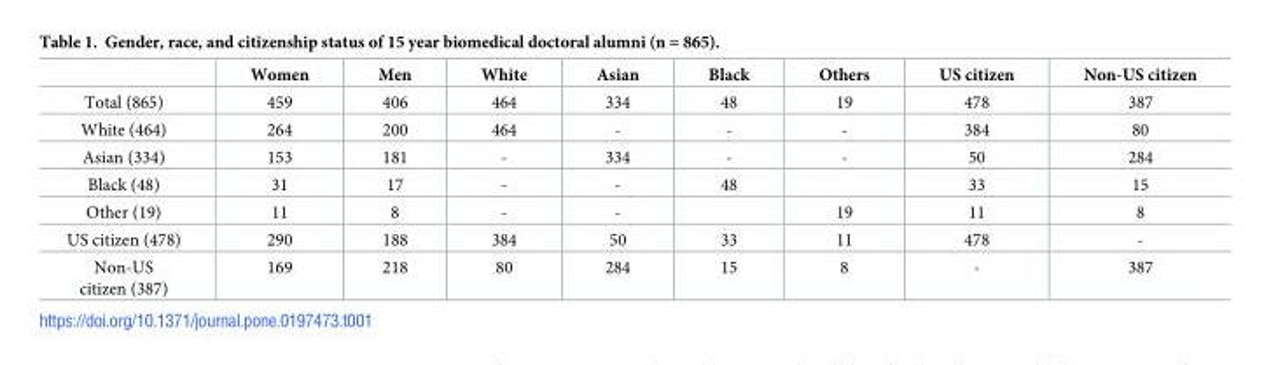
<table><thead><tr><td></td><td>Women</td><td>Men</td><td>White</td><td>Asian</td><td>Black</td><td>Others</td><td>US citizen</td><td>Non-US citizen</td></tr></thead><tbody><tr><td>Total (865)</td><td>459</td><td>406</td><td>464</td><td>334</td><td>48</td><td>19</td><td>478</td><td>387</td></tr><tr><td>White (464)</td><td>264</td><td>200</td><td>464</td><td>-</td><td>-</td><td>-</td><td>384</td><td>80</td></tr><tr><td>Asian (334)</td><td>153</td><td>181</td><td>-</td><td>334</td><td>-</td><td>-</td><td>50</td><td>284</td></tr><tr><td>Black (48)</td><td>31</td><td>17</td><td>-</td><td>-</td><td>48</td><td></td><td>33</td><td>15</td></tr><tr><td>Other (19)</td><td>11</td><td>8</td><td>-</td><td>-</td><td></td><td>19</td><td>11</td><td>8</td></tr><tr><td>US citizen (478)</td><td>290</td><td>188</td><td>384</td><td>50</td><td>33</td><td>11</td><td>478</td><td>-</td></tr><tr><td>Non-US citizen (387)</td><td>169</td><td>218</td><td>80</td><td>284</td><td>15</td><td>8</td><td>-</td><td>387</td></tr></tbody></table>